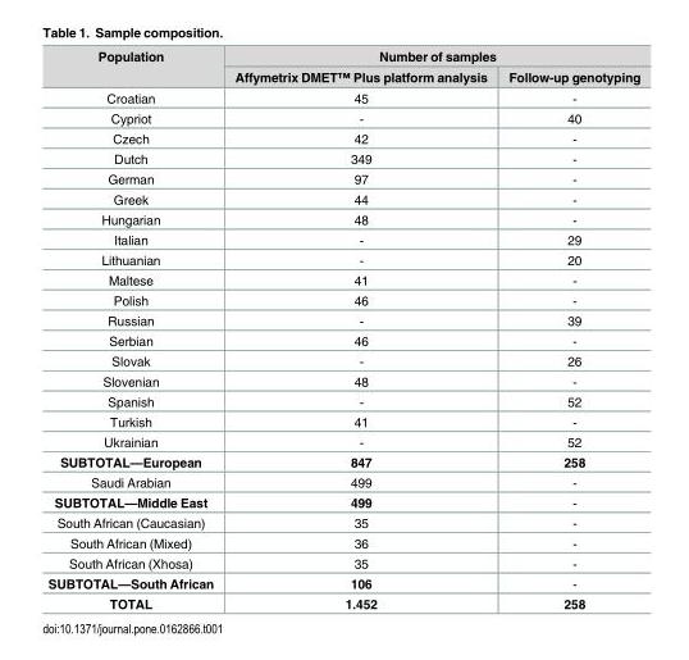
<table><thead><tr><td rowspan="2">Population</td><td colspan="2">Number of samples</td></tr><tr><td>Affymetrix DMET<sup>™</sup> Plus platform analysis</td><td>Follow-up genotyping</td></tr></thead><tbody><tr><td>Croatian</td><td>45</td><td>-</td></tr><tr><td>Cypriot</td><td>-</td><td>40</td></tr><tr><td>Czech</td><td>42</td><td>-</td></tr><tr><td>Dutch</td><td>349</td><td>-</td></tr><tr><td>German</td><td>97</td><td>-</td></tr><tr><td>Greek</td><td>44</td><td>-</td></tr><tr><td>Hungarian</td><td>48</td><td>-</td></tr><tr><td>Italian</td><td>-</td><td>29</td></tr><tr><td>Lithuanian</td><td>-</td><td>20</td></tr><tr><td>Maltese</td><td>41</td><td>-</td></tr><tr><td>Polish</td><td>46</td><td>-</td></tr><tr><td>Russian</td><td>-</td><td>39</td></tr><tr><td>Serbian</td><td>46</td><td>-</td></tr><tr><td>Slovak</td><td>-</td><td>26</td></tr><tr><td>Slovenian</td><td>48</td><td>-</td></tr><tr><td>Spanish</td><td>-</td><td>52</td></tr><tr><td>Turkish</td><td>41</td><td>-</td></tr><tr><td>Ukrainian</td><td>-</td><td>52</td></tr><tr><td>SUBTOTAL—European</td><td>847</td><td>258</td></tr><tr><td>Saudi Arabian</td><td>499</td><td>-</td></tr><tr><td>SUBTOTAL—Middle East</td><td>499</td><td>-</td></tr><tr><td>South African (Caucasian)</td><td>35</td><td>-</td></tr><tr><td>South African (Mixed)</td><td>36</td><td>-</td></tr><tr><td>South African (Xhosa)</td><td>35</td><td>-</td></tr><tr><td>SUBTOTAL—South African</td><td>106</td><td>-</td></tr><tr><td>TOTAL</td><td>1.452</td><td>258</td></tr></tbody></table>